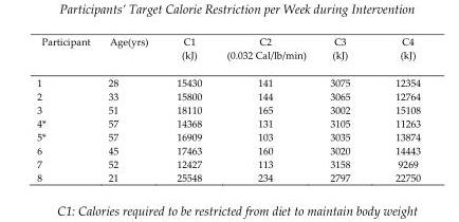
<table><thead><tr><td>Participant</td><td>Age(yrs)</td><td>C1 (kJ)</td><td>C2 (0.032 Cal/lb/min)</td><td>C3 (kJ)</td><td>C4 (kJ)</td></tr></thead><tbody><tr><td>1</td><td>28</td><td>15430</td><td>141</td><td>3075</td><td>12354</td></tr><tr><td>2</td><td>33</td><td>15800</td><td>144</td><td>3065</td><td>12764</td></tr><tr><td>3</td><td>51</td><td>18110</td><td>165</td><td>3002</td><td>15108</td></tr><tr><td>4*</td><td>57</td><td>14368</td><td>131</td><td>3105</td><td>11263</td></tr><tr><td>5*</td><td>57</td><td>16909</td><td>103</td><td>3035</td><td>13874</td></tr><tr><td>6</td><td>45</td><td>17463</td><td>160</td><td>3020</td><td>14443</td></tr><tr><td>7</td><td>52</td><td>12427</td><td>113</td><td>3158</td><td>9269</td></tr><tr><td>8</td><td>21</td><td>25548</td><td>234</td><td>2797</td><td>22750</td></tr></tbody></table>